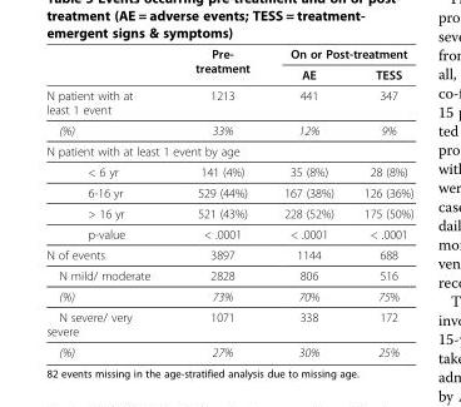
<table><thead><tr><td rowspan="2"></td><td rowspan="2">Pre- treatment</td><td colspan="2">On or Post-treatment</td></tr><tr><td>AE</td><td>TESS</td></tr></thead><tbody><tr><td>N patient with at least 1 event</td><td>1213</td><td>441</td><td>347</td></tr><tr><td>(%)</td><td>33%</td><td>12%</td><td>9%</td></tr><tr><td colspan="4">N patient with at least 1 event by age</td></tr><tr><td>&lt; 6 yr</td><td>141 (4%)</td><td>35 (8%)</td><td>28 (8%)</td></tr><tr><td>6-16 yr</td><td>529 (44%)</td><td>167 (38%)</td><td>126 (36%)</td></tr><tr><td>&gt; 16 yr</td><td>521 (43%)</td><td>228 (52%)</td><td>175 (50%)</td></tr><tr><td>p-value</td><td>&lt; .0001</td><td>&lt; .0001</td><td>&lt; .0001</td></tr><tr><td>N of events</td><td>3897</td><td>1144</td><td>688</td></tr><tr><td>N mild/ moderate</td><td>2828</td><td>806</td><td>516</td></tr><tr><td>(%)</td><td>73%</td><td>70%</td><td>75%</td></tr><tr><td>N severe/ very severe</td><td>1071</td><td>338</td><td>172</td></tr><tr><td>(%)</td><td>27%</td><td>30%</td><td>25%</td></tr></tbody></table>